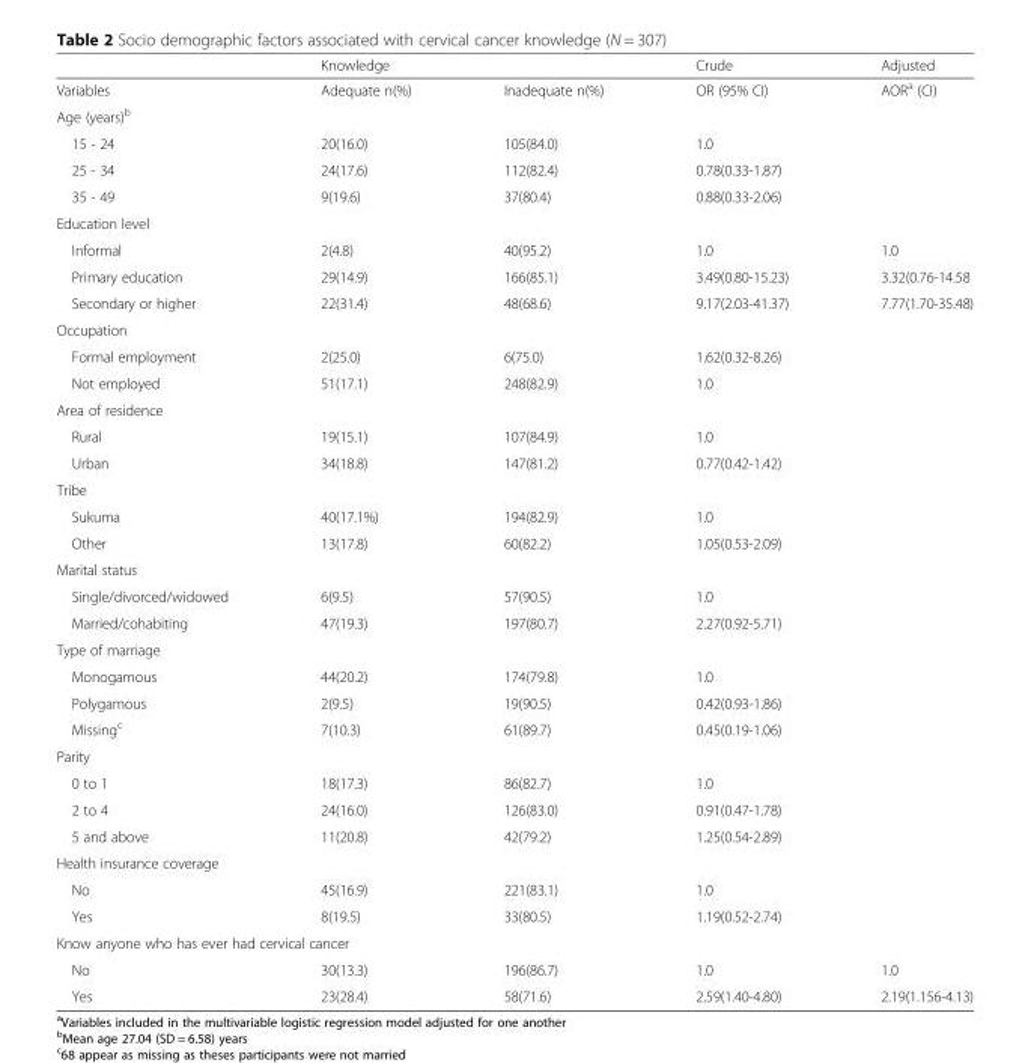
<table><thead><tr><td rowspan="2">Variables</td><td colspan="2">Knowledge</td><td rowspan="2">Crude OR (95% CI)</td><td rowspan="2">Adjusted AOR<sup>a</sup> (CI)</td></tr><tr><td>Adequate n(%)</td><td>Inadequate n(%)</td></tr></thead><tbody><tr><td colspan="5">Age (years)<sup>b</sup></td></tr><tr><td>15 - 24</td><td>20(16.0)</td><td>105(84.0)</td><td>1.0</td><td></td></tr><tr><td>25 - 34</td><td>24(17.6)</td><td>112(82.4)</td><td>0.78(0.33-1.87)</td><td></td></tr><tr><td>35 - 49</td><td>9(19.6)</td><td>37(80.4)</td><td>0.88(0.33-2.06)</td><td></td></tr><tr><td colspan="5">Education level</td></tr><tr><td>Informal</td><td>2(4.8)</td><td>40(95.2)</td><td>1.0</td><td>1.0</td></tr><tr><td>Primary education</td><td>29(14.9)</td><td>166(85.1)</td><td>3.49(0.80-15.23)</td><td>3.32(0.76-14.58</td></tr><tr><td>Secondary or higher</td><td>22(31.4)</td><td>48(68.6)</td><td>9.17(2.03-41.37)</td><td>7.77(1.70-35.48)</td></tr><tr><td colspan="5">Occupation</td></tr><tr><td>Formal employment</td><td>2(25.0)</td><td>6(75.0)</td><td>1.62(0.32-8.26)</td><td></td></tr><tr><td>Not employed</td><td>51(17.1)</td><td>248(82.9)</td><td>1.0</td><td></td></tr><tr><td colspan="5">Area of residence</td></tr><tr><td>Rural</td><td>19(15.1)</td><td>107(84.9)</td><td>1.0</td><td></td></tr><tr><td>Urban</td><td>34(18.8)</td><td>147(81.2)</td><td>0.77(0.42-1.42)</td><td></td></tr><tr><td colspan="5">Tribe</td></tr><tr><td>Sukuma</td><td>40(17.1%)</td><td>194(82.9)</td><td>1.0</td><td></td></tr><tr><td>Other</td><td>13(17.8)</td><td>60(82.2)</td><td>1.05(0.53-2.09)</td><td></td></tr><tr><td colspan="5">Marital status</td></tr><tr><td>Single/divorced/widowed</td><td>6(9.5)</td><td>57(90.5)</td><td>1.0</td><td></td></tr><tr><td>Married/cohabiting</td><td>47(19.3)</td><td>197(80.7)</td><td>2.27(0.92-5.71)</td><td></td></tr><tr><td colspan="5">Type of marriage</td></tr><tr><td>Monogamous</td><td>44(20.2)</td><td>174(79.8)</td><td>1.0</td><td></td></tr><tr><td>Polygamous</td><td>2(9.5)</td><td>19(90.5)</td><td>0.42(0.93-1.86)</td><td></td></tr><tr><td>Missing<sup>c</sup></td><td>7(10.3)</td><td>61(89.7)</td><td>0.45(0.19-1.06)</td><td></td></tr><tr><td colspan="5">Parity</td></tr><tr><td>0 to 1</td><td>18(17.3)</td><td>86(82.7)</td><td>1.0</td><td></td></tr><tr><td>2 to 4</td><td>24(16.0)</td><td>126(83.0)</td><td>0.91(0.47-1.78)</td><td></td></tr><tr><td>5 and above</td><td>11(20.8)</td><td>42(79.2)</td><td>1.25(0.54-2.89)</td><td></td></tr><tr><td colspan="5">Health insurance coverage</td></tr><tr><td>No</td><td>45(16.9)</td><td>221(83.1)</td><td>1.0</td><td></td></tr><tr><td>Yes</td><td>8(19.5)</td><td>33(80.5)</td><td>1.19(0.52-2.74)</td><td></td></tr><tr><td colspan="5">Know anyone who has ever had cervical cancer</td></tr><tr><td>No</td><td>30(13.3)</td><td>196(86.7)</td><td>1.0</td><td>1.0</td></tr><tr><td>Yes</td><td>23(28.4)</td><td>58(71.6)</td><td>2.59(1.40-4.80)</td><td>2.19(1.156-4.13)</td></tr></tbody></table>